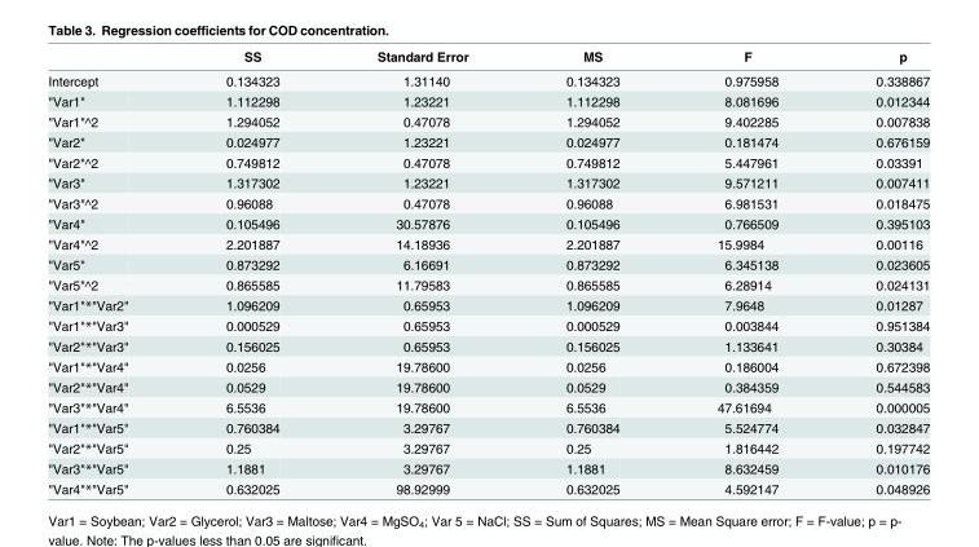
<table><thead><tr><td></td><td>SS</td><td>Standard Error</td><td>MS</td><td>F</td><td>p</td></tr></thead><tbody><tr><td>Intercept</td><td>0.134323</td><td>1.31140</td><td>0.134323</td><td>0.975958</td><td>0.338867</td></tr><tr><td>&quot;Var1&quot;</td><td>1.112298</td><td>1.23221</td><td>1.112298</td><td>8.081696</td><td>0.012344</td></tr><tr><td>&quot;Var1&quot;^2</td><td>1.294052</td><td>0.47078</td><td>1.294052</td><td>9.402285</td><td>0.007838</td></tr><tr><td>&quot;Var2&quot;</td><td>0.024977</td><td>1.23221</td><td>0.024977</td><td>0.181474</td><td>0.676159</td></tr><tr><td>&quot;Var2&quot;^2</td><td>0.749812</td><td>0.47078</td><td>0.749812</td><td>5.447961</td><td>0.03391</td></tr><tr><td>&quot;Var3&quot;</td><td>1.317302</td><td>1.23221</td><td>1.317302</td><td>9.571211</td><td>0.007411</td></tr><tr><td>&quot;Var3&quot;^2</td><td>0.96088</td><td>0.47078</td><td>0.96088</td><td>6.981531</td><td>0.018475</td></tr><tr><td>&quot;Var4&quot;</td><td>0.105496</td><td>30.57876</td><td>0.105496</td><td>0.766509</td><td>0.395103</td></tr><tr><td>&quot;Var4&quot;^2</td><td>2.201887</td><td>14.18936</td><td>2.201887</td><td>15.9984</td><td>0.00116</td></tr><tr><td>&quot;Var5&quot;</td><td>0.873292</td><td>6.16691</td><td>0.873292</td><td>6.345138</td><td>0.023605</td></tr><tr><td>&quot;Var5&quot;^2</td><td>0.865585</td><td>11.79583</td><td>0.865585</td><td>6.28914</td><td>0.024131</td></tr><tr><td>&quot;Var1&quot;*&quot;Var2&quot;</td><td>1.096209</td><td>0.65953</td><td>1.096209</td><td>7.9648</td><td>0.01287</td></tr><tr><td>&quot;Var1&quot;*&quot;Var3&quot;</td><td>0.000529</td><td>0.65953</td><td>0.000529</td><td>0.003844</td><td>0.951384</td></tr><tr><td>&quot;Var2&quot;*&quot;Var3&quot;</td><td>0.156025</td><td>0.65953</td><td>0.156025</td><td>1.133641</td><td>0.30384</td></tr><tr><td>&quot;Var1&quot;*&quot;Var4&quot;</td><td>0.0256</td><td>19.78600</td><td>0.0256</td><td>0.186004</td><td>0.672398</td></tr><tr><td>&quot;Var2&quot;*&quot;Var4&quot;</td><td>0.0529</td><td>19.78600</td><td>0.0529</td><td>0.384359</td><td>0.544583</td></tr><tr><td>&quot;Var3&quot;*&quot;Var4&quot;</td><td>6.5536</td><td>19.78600</td><td>6.5536</td><td>47.61694</td><td>0.000005</td></tr><tr><td>&quot;Var1&quot;*&quot;Var5&quot;</td><td>0.760384</td><td>3.29767</td><td>0.760384</td><td>5.524774</td><td>0.032847</td></tr><tr><td>&quot;Var2&quot;*&quot;Var5&quot;</td><td>0.25</td><td>3.29767</td><td>0.25</td><td>1.816442</td><td>0.197742</td></tr><tr><td>&quot;Var3&quot;*&quot;Var5&quot;</td><td>1.1881</td><td>3.29767</td><td>1.1881</td><td>8.632459</td><td>0.010176</td></tr><tr><td>&quot;Var4&quot;*&quot;Var5&quot;</td><td>0.632025</td><td>98.92999</td><td>0.632025</td><td>4.592147</td><td>0.048926</td></tr></tbody></table>